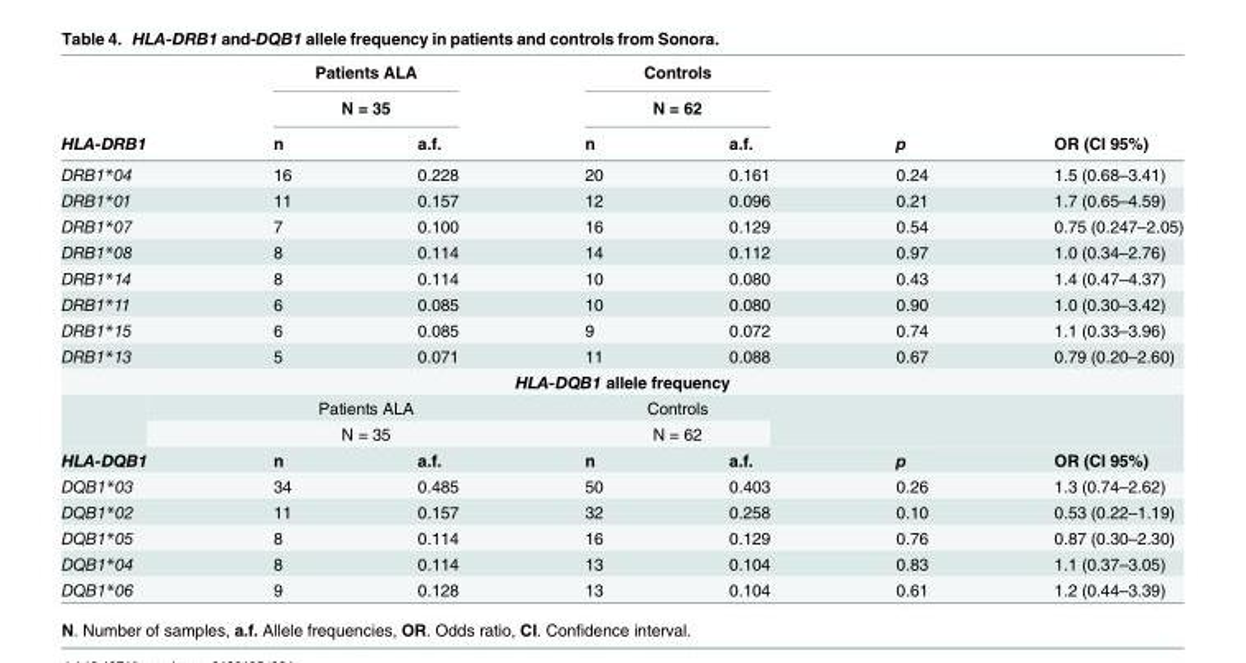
<table><thead><tr><td rowspan="3">HLA-DRB1</td><td rowspan="2" colspan="2">Patients ALA N = 35</td><td rowspan="2" colspan="2">Controls N = 62</td><td rowspan="3">p</td><td rowspan="3">OR (CI 95%)</td></tr><tr></tr><tr><td>n</td><td>a.f.</td><td>n</td><td>a.f.</td></tr></thead><tbody><tr><td>DRB1*04</td><td>16</td><td>0.228</td><td>20</td><td>0.161</td><td>0.24</td><td>1.5 (0.68–3.41)</td></tr><tr><td>DRB1*01</td><td>11</td><td>0.157</td><td>12</td><td>0.096</td><td>0.21</td><td>1.7 (0.65–4.59)</td></tr><tr><td>DRB1*07</td><td>7</td><td>0.100</td><td>16</td><td>0.129</td><td>0.54</td><td>0.75 (0.247–2.05)</td></tr><tr><td>DRB1*08</td><td>8</td><td>0.114</td><td>14</td><td>0.112</td><td>0.97</td><td>1.0 (0.34–2.76)</td></tr><tr><td>DRB1*14</td><td>8</td><td>0.114</td><td>10</td><td>0.080</td><td>0.43</td><td>1.4 (0.47–4.37)</td></tr><tr><td>DRB1*11</td><td>6</td><td>0.085</td><td>10</td><td>0.080</td><td>0.90</td><td>1.0 (0.30–3.42)</td></tr><tr><td>DRB1*15</td><td>6</td><td>0.085</td><td>9</td><td>0.072</td><td>0.74</td><td>1.1 (0.33–3.96)</td></tr><tr><td>DRB1*13</td><td>5</td><td>0.071</td><td>11</td><td>0.088</td><td>0.67</td><td>0.79 (0.20–2.60)</td></tr><tr><td colspan="7">HLA-DQB1 allele frequency</td></tr><tr><td rowspan="2"></td><td colspan="2">Patients ALA</td><td colspan="2">Controls</td><td rowspan="2"></td><td rowspan="2"></td></tr><tr><td colspan="2">N = 35</td><td colspan="2">N = 62</td></tr><tr><td>HLA-DQB1</td><td>n</td><td>a.f.</td><td>n</td><td>a.f.</td><td>p</td><td>OR (CI 95%)</td></tr><tr><td>DQB1*03</td><td>34</td><td>0.485</td><td>50</td><td>0.403</td><td>0.26</td><td>1.3 (0.74–2.62)</td></tr><tr><td>DQB1*02</td><td>11</td><td>0.157</td><td>32</td><td>0.258</td><td>0.10</td><td>0.53 (0.22–1.19)</td></tr><tr><td>DQB1*05</td><td>8</td><td>0.114</td><td>16</td><td>0.129</td><td>0.76</td><td>0.87 (0.30–2.30)</td></tr><tr><td>DQB1*04</td><td>8</td><td>0.114</td><td>13</td><td>0.104</td><td>0.83</td><td>1.1 (0.37–3.05)</td></tr><tr><td>DQB1*06</td><td>9</td><td>0.128</td><td>13</td><td>0.104</td><td>0.61</td><td>1.2 (0.44–3.39)</td></tr></tbody></table>